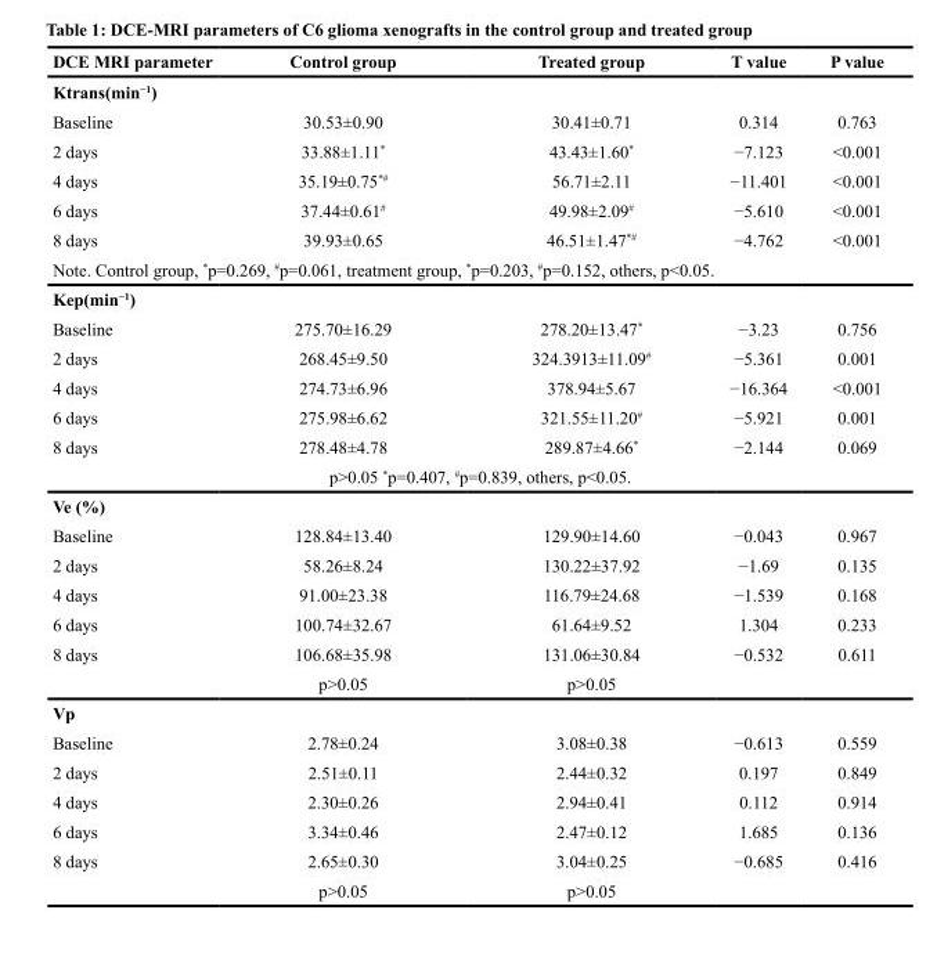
<table><thead><tr><td>DCE MRI parameter</td><td>Control group</td><td>Treated group</td><td>T value</td><td>P value</td></tr></thead><tbody><tr><td colspan="5">Ktrans(min<sup>−1</sup>)</td></tr><tr><td>Baseline</td><td>30.53±0.90</td><td>30.41±0.71</td><td>0.314</td><td>0.763</td></tr><tr><td>2 days</td><td>33.88±1.11*</td><td>43.43±1.60*</td><td>−7.123</td><td>&lt;0.001</td></tr><tr><td>4 days</td><td>35.19±0.75<sup>*#</sup></td><td>56.71±2.11</td><td>−11.401</td><td>&lt;0.001</td></tr><tr><td>6 days</td><td>37.44±0.61<sup>#</sup></td><td>49.98±2.09<sup>#</sup></td><td>−5.610</td><td>&lt;0.001</td></tr><tr><td>8 days</td><td>39.93±0.65</td><td>46.51±1.47<sup>*#</sup></td><td>−4.762</td><td>&lt;0.001</td></tr><tr><td colspan="5">Note. Control group, *p=0.269, <sup>#</sup>p=0.061, treatment group, *p=0.203, <sup>#</sup>p=0.152, others, p&lt;0.05.</td></tr><tr><td colspan="5">Kep(min<sup>−1</sup>)</td></tr><tr><td>Baseline</td><td>275.70±16.29</td><td>278.20±13.47*</td><td>−3.23</td><td>0.756</td></tr><tr><td>2 days</td><td>268.45±9.50</td><td>324.3913±11.09<sup>#</sup></td><td>−5.361</td><td>0.001</td></tr><tr><td>4 days</td><td>274.73±6.96</td><td>378.94±5.67</td><td>−16.364</td><td>&lt;0.001</td></tr><tr><td>6 days</td><td>275.98±6.62</td><td>321.55±11.20<sup>#</sup></td><td>−5.921</td><td>0.001</td></tr><tr><td>8 days</td><td>278.48±4.78</td><td>289.87±4.66*</td><td>−2.144</td><td>0.069</td></tr><tr><td colspan="5">p&gt;0.05 *p=0.407, <sup>#</sup>p=0.839, others, p&lt;0.05.</td></tr><tr><td colspan="5">Ve (%)</td></tr><tr><td>Baseline</td><td>128.84±13.40</td><td>129.90±14.60</td><td>−0.043</td><td>0.967</td></tr><tr><td>2 days</td><td>58.26±8.24</td><td>130.22±37.92</td><td>−1.69</td><td>0.135</td></tr><tr><td>4 days</td><td>91.00±23.38</td><td>116.79±24.68</td><td>−1.539</td><td>0.168</td></tr><tr><td>6 days</td><td>100.74±32.67</td><td>61.64±9.52</td><td>1.304</td><td>0.233</td></tr><tr><td rowspan="2">8 days</td><td>106.68±35.98</td><td>131.06±30.84</td><td>−0.532</td><td>0.611</td></tr><tr><td>p&gt;0.05</td><td>p&gt;0.05</td><td></td><td></td></tr><tr><td colspan="5">Vp</td></tr><tr><td>Baseline</td><td>2.78±0.24</td><td>3.08±0.38</td><td>−0.613</td><td>0.559</td></tr><tr><td>2 days</td><td>2.51±0.11</td><td>2.44±0.32</td><td>0.197</td><td>0.849</td></tr><tr><td>4 days</td><td>2.30±0.26</td><td>2.94±0.41</td><td>0.112</td><td>0.914</td></tr><tr><td>6 days</td><td>3.34±0.46</td><td>2.47±0.12</td><td>1.685</td><td>0.136</td></tr><tr><td rowspan="2">8 days</td><td>2.65±0.30</td><td>3.04±0.25</td><td>−0.685</td><td>0.416</td></tr><tr><td>p&gt;0.05</td><td>p&gt;0.05</td><td></td><td></td></tr></tbody></table>